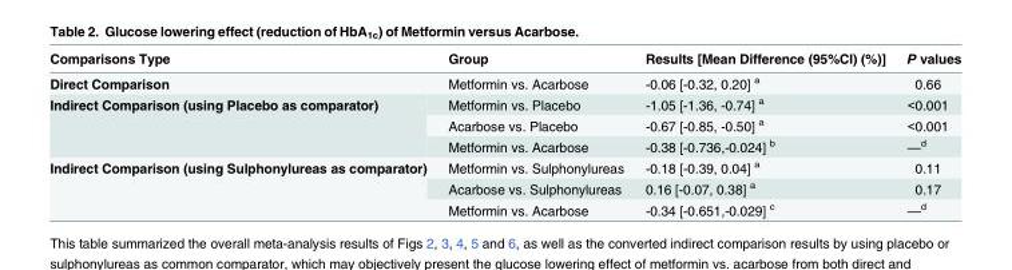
<table><thead><tr><td>Comparisons Type</td><td>Group</td><td>Results [Mean Difference (95%CI) (%)]</td><td>P values</td></tr></thead><tbody><tr><td>Direct Comparison</td><td>Metformin vs. Acarbose</td><td>-0.06 [-0.32, 0.20] <sup>a</sup></td><td>0.66</td></tr><tr><td rowspan="3">Indirect Comparison (using Placebo as comparator)</td><td>Metformin vs. Placebo</td><td>-1.05 [-1.36, -0.74] <sup>a</sup></td><td>&lt;0.001</td></tr><tr><td>Acarbose vs. Placebo</td><td>-0.67 [-0.85, -0.50] <sup>a</sup></td><td>&lt;0.001</td></tr><tr><td>Metformin vs. Acarbose</td><td>-0.38 [-0.736,-0.024] <sup>b</sup></td><td>—<sup>d</sup></td></tr><tr><td rowspan="3">Indirect Comparison (using Sulphonylureas as comparator)</td><td>Metformin vs. Sulphonylureas</td><td>-0.18 [-0.39, 0.04] <sup>a</sup></td><td>0.11</td></tr><tr><td>Acarbose vs. Sulphonylureas</td><td>0.16 [-0.07, 0.38] <sup>a</sup></td><td>0.17</td></tr><tr><td>Metformin vs. Acarbose</td><td>-0.34 [-0.651,-0.029] <sup>c</sup></td><td>—<sup>d</sup></td></tr></tbody></table>